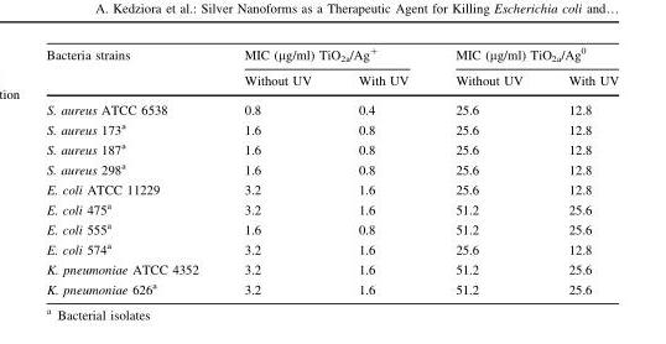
<table><thead><tr><td rowspan="2">Bacteria strains</td><td colspan="2">MIC (µg/ml) TiO<sub>2a</sub>/Ag<sup>+</sup></td><td colspan="2">MIC (µg/ml) TiO<sub>2a</sub>/Ag<sup>0</sup></td></tr><tr><td>Without UV</td><td>With UV</td><td>Without UV</td><td>With UV</td></tr></thead><tbody><tr><td>S. aureus ATCC 6538</td><td>0.8</td><td>0.4</td><td>25.6</td><td>12.8</td></tr><tr><td>S. aureus 173<sup>a</sup></td><td>1.6</td><td>0.8</td><td>25.6</td><td>12.8</td></tr><tr><td>S. aureus 187<sup>a</sup></td><td>1.6</td><td>0.8</td><td>25.6</td><td>12.8</td></tr><tr><td>S. aureus 298<sup>a</sup></td><td>1.6</td><td>0.8</td><td>25.6</td><td>12.8</td></tr><tr><td>E. coli ATCC 11229</td><td>3.2</td><td>1.6</td><td>25.6</td><td>12.8</td></tr><tr><td>E. coli 475<sup>a</sup></td><td>3.2</td><td>1.6</td><td>51.2</td><td>25.6</td></tr><tr><td>E. coli 555<sup>a</sup></td><td>1.6</td><td>0.8</td><td>51.2</td><td>25.6</td></tr><tr><td>E. coli 574<sup>a</sup></td><td>3.2</td><td>1.6</td><td>25.6</td><td>12.8</td></tr><tr><td>K. pneumoniae ATCC 4352</td><td>3.2</td><td>1.6</td><td>51.2</td><td>25.6</td></tr><tr><td>K. pneumoniae 626<sup>a</sup></td><td>3.2</td><td>1.6</td><td>51.2</td><td>25.6</td></tr></tbody></table>